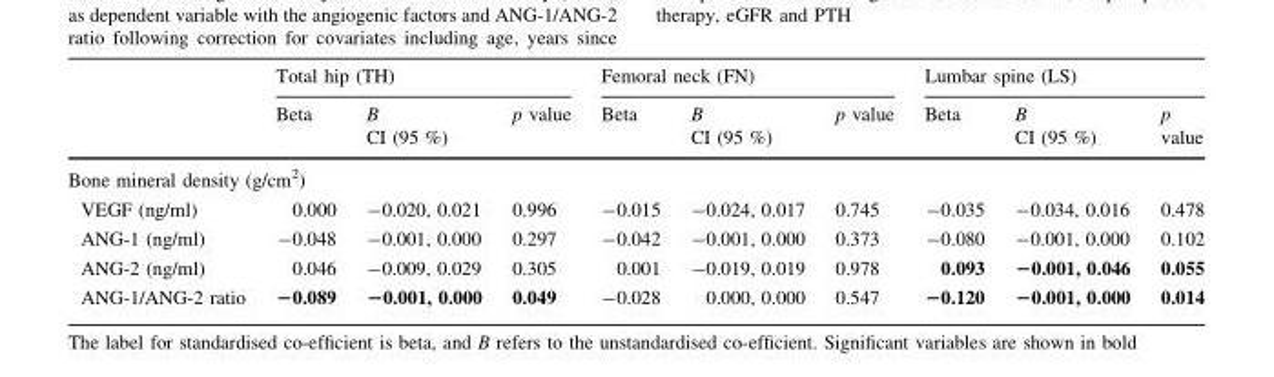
<table><thead><tr><td rowspan="2"></td><td colspan="3">Total hip (TH)</td><td colspan="3">Femoral neck (FN)</td><td colspan="3">Lumbar spine (LS)</td></tr><tr><td>Beta</td><td>B CI (95 %)</td><td>p value</td><td>Beta</td><td>B CI (95 %)</td><td>p value</td><td>Beta</td><td>B CI (95 %)</td><td>p value</td></tr></thead><tbody><tr><td colspan="10">Bone mineral density (g/cm<sup>2</sup>)</td></tr><tr><td>VEGF (ng/ml)</td><td>0.000</td><td>-0.020, 0.021</td><td>0.996</td><td>-0.015</td><td>-0.024, 0.017</td><td>0.745</td><td>-0.035</td><td>-0.034, 0.016</td><td>0.478</td></tr><tr><td>ANG-1 (ng/ml)</td><td>-0.048</td><td>-0.001, 0.000</td><td>0.297</td><td>-0.042</td><td>-0.001, 0.000</td><td>0.373</td><td>-0.080</td><td>-0.001, 0.000</td><td>0.102</td></tr><tr><td>ANG-2 (ng/ml)</td><td>0.046</td><td>-0.009, 0.029</td><td>0.305</td><td>0.001</td><td>-0.019, 0.019</td><td>0.978</td><td>0.093</td><td>−0.001, 0.046</td><td>0.055</td></tr><tr><td>ANG-1/ANG-2 ratio</td><td>−0.089</td><td>−0.001, 0.000</td><td>0.049</td><td>-0.028</td><td>0.000, 0.000</td><td>0.547</td><td>−0.120</td><td>−0.001, 0.000</td><td>0.014</td></tr></tbody></table>